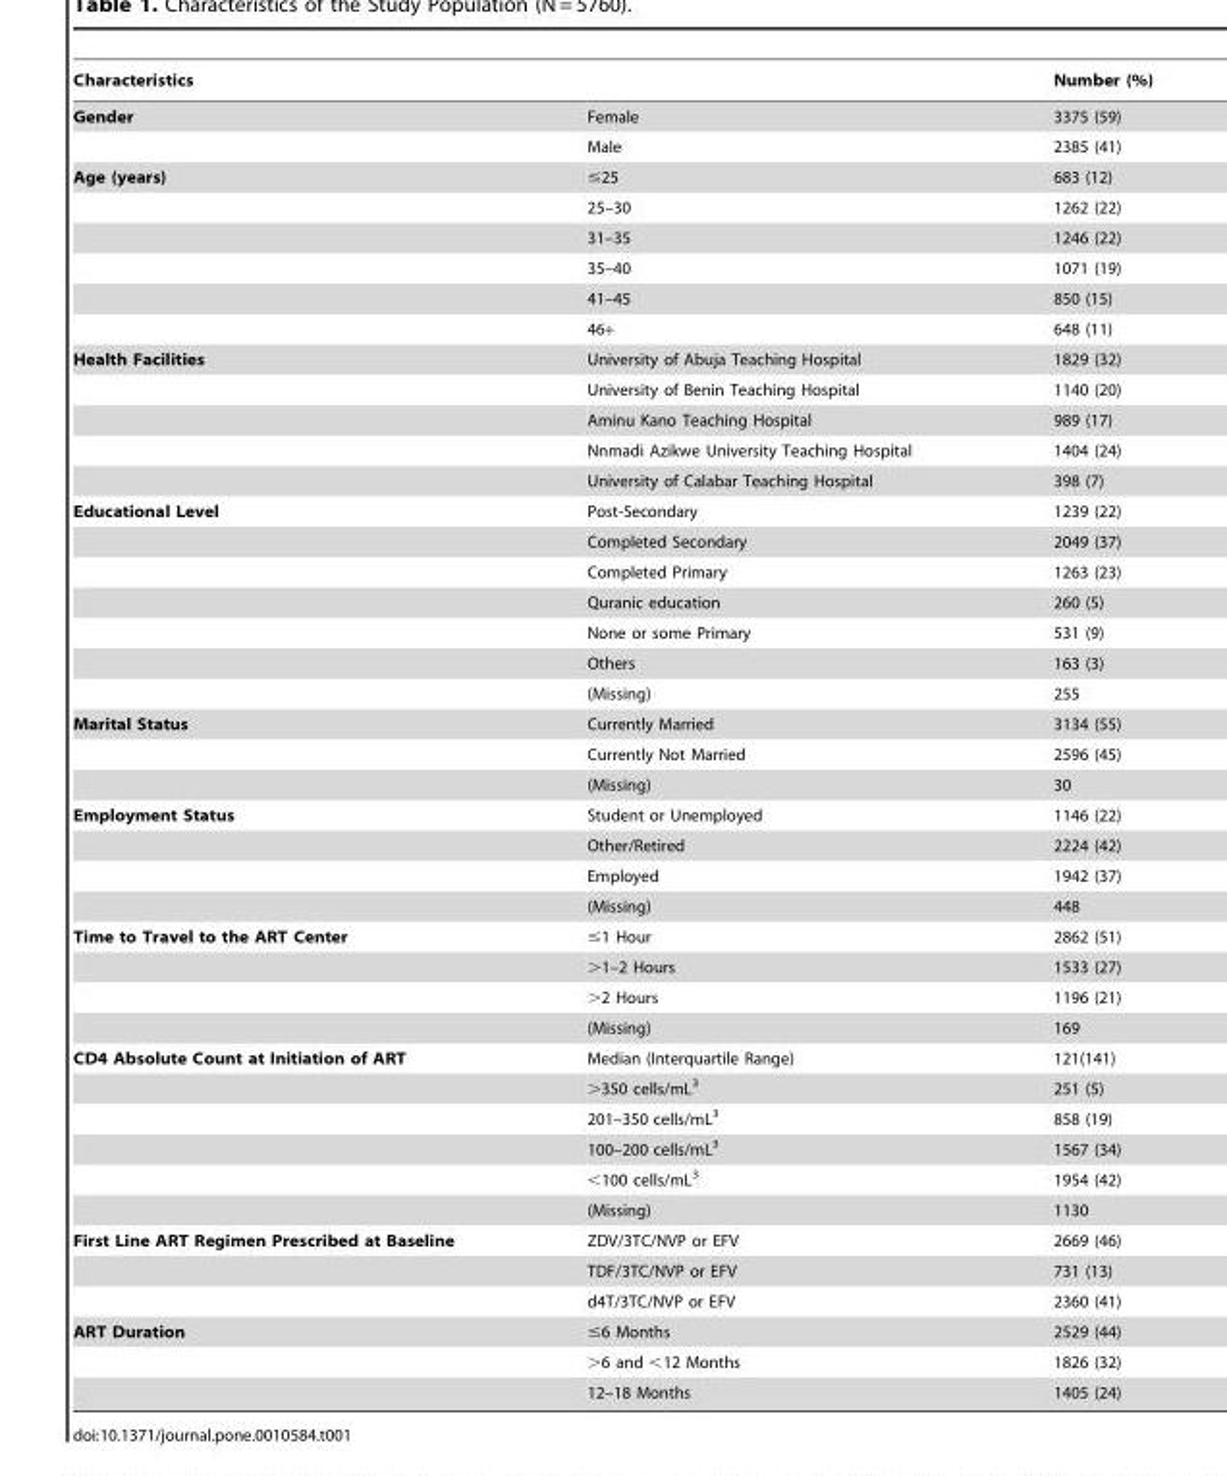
<table><thead><tr><td>Characteristics</td><td></td><td>Number (%)</td></tr></thead><tbody><tr><td rowspan="2">Gender</td><td>Female</td><td>3375 (59)</td></tr><tr><td>Male</td><td>2385 (41)</td></tr><tr><td rowspan="6">Age (years)</td><td>≤25</td><td>683 (12)</td></tr><tr><td>25–30</td><td>1262 (22)</td></tr><tr><td>31–35</td><td>1246 (22)</td></tr><tr><td>35–40</td><td>1071 (19)</td></tr><tr><td>41–45</td><td>850 (15)</td></tr><tr><td>46+</td><td>648 (11)</td></tr><tr><td rowspan="5">Health Facilities</td><td>University of Abuja Teaching Hospital</td><td>1829 (32)</td></tr><tr><td>University of Benin Teaching Hospital</td><td>1140 (20)</td></tr><tr><td>Aminu Kano Teaching Hospital</td><td>989 (17)</td></tr><tr><td>Nnmadi Azikwe University Teaching Hospital</td><td>1404 (24)</td></tr><tr><td>University of Calabar Teaching Hospital</td><td>398 (7)</td></tr><tr><td rowspan="7">Educational Level</td><td>Post-Secondary</td><td>1239 (22)</td></tr><tr><td>Completed Secondary</td><td>2049 (37)</td></tr><tr><td>Completed Primary</td><td>1263 (23)</td></tr><tr><td>Quranic education</td><td>260 (5)</td></tr><tr><td>None or some Primary</td><td>531 (9)</td></tr><tr><td>Others</td><td>163 (3)</td></tr><tr><td>(Missing)</td><td>255</td></tr><tr><td rowspan="3">Marital Status</td><td>Currently Married</td><td>3134 (55)</td></tr><tr><td>Currently Not Married</td><td>2596 (45)</td></tr><tr><td>(Missing)</td><td>30</td></tr><tr><td rowspan="4">Employment Status</td><td>Student or Unemployed</td><td>1146 (22)</td></tr><tr><td>Other/Retired</td><td>2224 (42)</td></tr><tr><td>Employed</td><td>1942 (37)</td></tr><tr><td>(Missing)</td><td>448</td></tr><tr><td rowspan="4">Time to Travel to the ART Center</td><td>≤1 Hour</td><td>2862 (51)</td></tr><tr><td>&gt;1–2 Hours</td><td>1533 (27)</td></tr><tr><td>&gt;2 Hours</td><td>1196 (21)</td></tr><tr><td>(Missing)</td><td>169</td></tr><tr><td rowspan="6">CD4 Absolute Count at Initiation of ART</td><td>Median (Interquartile Range)</td><td>121(141)</td></tr><tr><td>&gt;350 cells/mL<sup>3</sup></td><td>251 (5)</td></tr><tr><td>201–350 cells/mL<sup>3</sup></td><td>858 (19)</td></tr><tr><td>100–200 cells/mL<sup>3</sup></td><td>1567 (34)</td></tr><tr><td>&lt;100 cells/mL<sup>3</sup></td><td>1954 (42)</td></tr><tr><td>(Missing)</td><td>1130</td></tr><tr><td rowspan="3">First Line ART Regimen Prescribed at Baseline</td><td>ZDV/3TC/NVP or EFV</td><td>2669 (46)</td></tr><tr><td>TDF/3TC/NVP or EFV</td><td>731 (13)</td></tr><tr><td>d4T/3TC/NVP or EFV</td><td>2360 (41)</td></tr><tr><td rowspan="3">ART Duration</td><td>≤6 Months</td><td>2529 (44)</td></tr><tr><td>&gt;6 and &lt;12 Months</td><td>1826 (32)</td></tr><tr><td>12–18 Months</td><td>1405 (24)</td></tr></tbody></table>